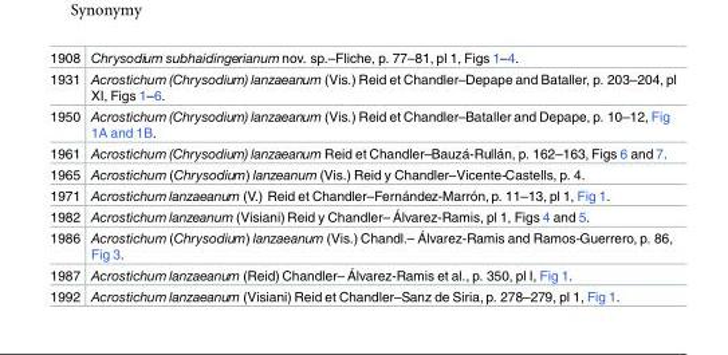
<table><tbody><tr><td>1908</td><td>Chrysodium subhaidingerianum nov. sp.–Fliche, p. 77–81, pl 1, Figs 1–4.</td></tr><tr><td>1931</td><td>Acrostichum (Chrysodium) lanzaeanum (Vis.) Reid et Chandler–Depape and Bataller, p. 203–204, pl XI, Figs 1–6.</td></tr><tr><td>1950</td><td>Acrostichum (Chrysodium) lanzaeanum (Vis.) Reid et Chandler–Bataller and Depape, p. 10–12, Fig 1A and 1B.</td></tr><tr><td>1961</td><td>Acrostichum (Chrysodium) lanzaeanum Reid et Chandler–Bauzá-Rullán, p. 162–163, Figs 6 and 7.</td></tr><tr><td>1965</td><td>Acrostichum (Chrysodium) lanzeanum (Vis.) Reid y Chandler–Vicente-Castells, p. 4.</td></tr><tr><td>1971</td><td>Acrostichum lanzaeanum (V.) Reid et Chandler–Fernández-Marrón, p. 11–13, pl 1, Fig 1.</td></tr><tr><td>1982</td><td>Acrostichum lanzeanum (Visiani) Reid y Chandler– Álvarez-Ramis, pl 1, Figs 4 and 5.</td></tr><tr><td>1986</td><td>Acrostichum (Chrysodium) lanzaeanum (Vis.) Chandl.– Álvarez-Ramis and Ramos-Guerrero, p. 86, Fig 3.</td></tr><tr><td>1987</td><td>Acrostichum lanzaeanum (Reid) Chandler– Álvarez-Ramis et al., p. 350, pl I, Fig 1.</td></tr><tr><td>1992</td><td>Acrostichum lanzaeanum (Visiani) Reid et Chandler–Sanz de Siria, p. 278–279, pl 1, Fig 1.</td></tr></tbody></table>